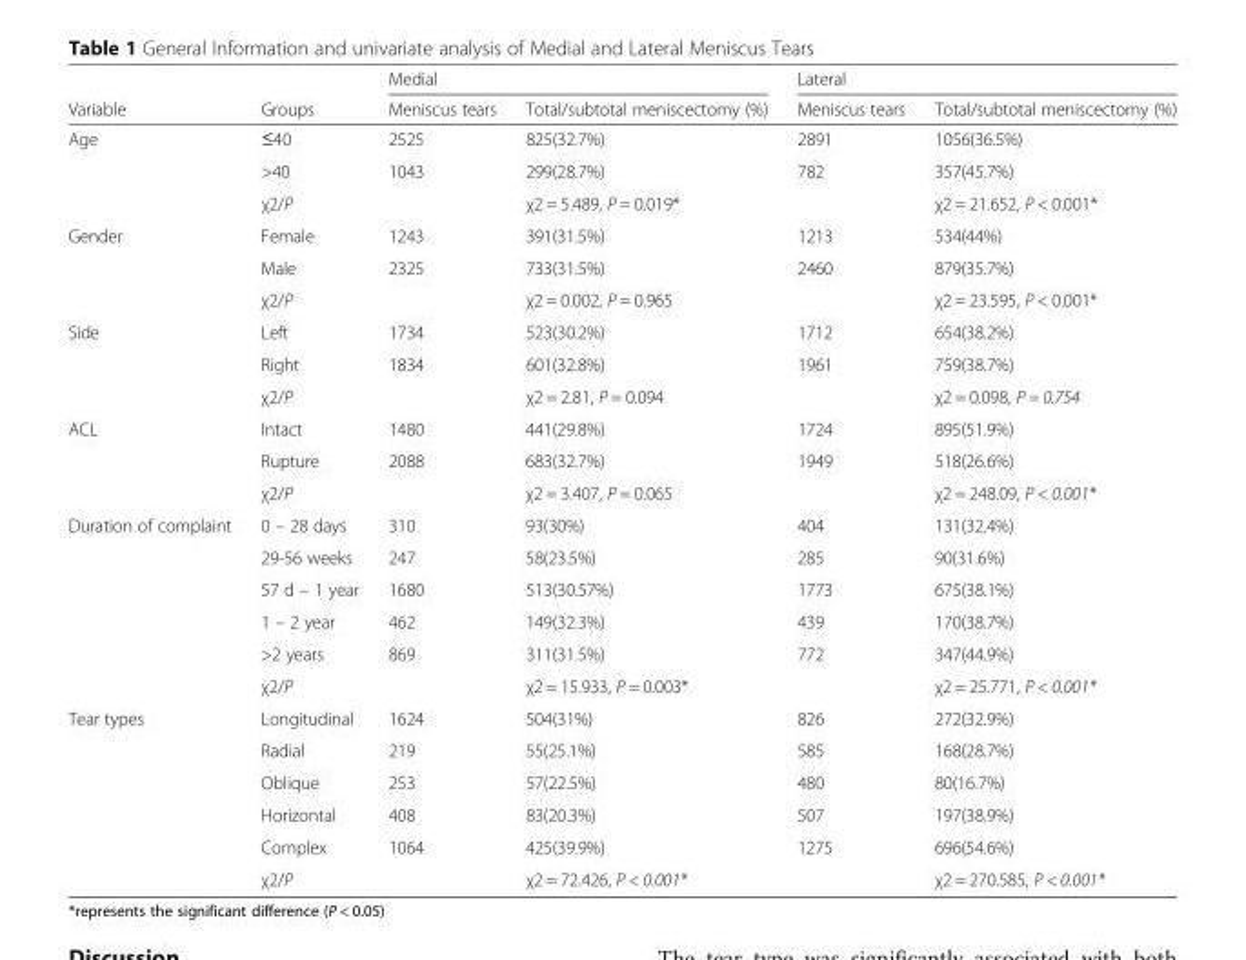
<table><thead><tr><td rowspan="2">Variable</td><td rowspan="2">Groups</td><td colspan="2">Medial</td><td colspan="2">Lateral</td></tr><tr><td>Meniscus tears</td><td>Total/subtotal meniscectomy (%)</td><td>Meniscus tears</td><td>Total/subtotal meniscectomy (%)</td></tr></thead><tbody><tr><td rowspan="3">Age</td><td>≤40</td><td>2525</td><td>825(32.7%)</td><td>2891</td><td>1056(36.5%)</td></tr><tr><td>&gt;40</td><td>1043</td><td>299(28.7%)</td><td>782</td><td>357(45.7%)</td></tr><tr><td>χ2/P</td><td></td><td>χ2 = 5.489, P = 0.019*</td><td></td><td>χ2 = 21.652, P &lt; 0.001*</td></tr><tr><td rowspan="3">Gender</td><td>Female</td><td>1243</td><td>391(31.5%)</td><td>1213</td><td>534(44%)</td></tr><tr><td>Male</td><td>2325</td><td>733(31.5%)</td><td>2460</td><td>879(35.7%)</td></tr><tr><td>χ2/P</td><td></td><td>χ2 = 0.002, P = 0.965</td><td></td><td>χ2 = 23.595, P &lt; 0.001*</td></tr><tr><td rowspan="3">Side</td><td>Left</td><td>1734</td><td>523(30.2%)</td><td>1712</td><td>654(38.2%)</td></tr><tr><td>Right</td><td>1834</td><td>601(32.8%)</td><td>1961</td><td>759(38.7%)</td></tr><tr><td>χ2/P</td><td></td><td>χ2 = 2.81, P = 0.094</td><td></td><td>χ2 = 0.098, P = 0.754</td></tr><tr><td rowspan="3">ACL</td><td>Intact</td><td>1480</td><td>441(29.8%)</td><td>1724</td><td>895(51.9%)</td></tr><tr><td>Rupture</td><td>2088</td><td>683(32.7%)</td><td>1949</td><td>518(26.6%)</td></tr><tr><td>χ2/P</td><td></td><td>χ2 = 3.407, P = 0.065</td><td></td><td>χ2 = 248.09, P &lt; 0.001*</td></tr><tr><td rowspan="6">Duration of complaint</td><td>0 – 28 days</td><td>310</td><td>93(30%)</td><td>404</td><td>131(32.4%)</td></tr><tr><td>29-56 weeks</td><td>247</td><td>58(23.5%)</td><td>285</td><td>90(31.6%)</td></tr><tr><td>57 d – 1 year</td><td>1680</td><td>513(30.57%)</td><td>1773</td><td>675(38.1%)</td></tr><tr><td>1 – 2 year</td><td>462</td><td>149(32.3%)</td><td>439</td><td>170(38.7%)</td></tr><tr><td>&gt;2 years</td><td>869</td><td>311(31.5%)</td><td>772</td><td>347(44.9%)</td></tr><tr><td>χ2/P</td><td></td><td>χ2 = 15.933, P = 0.003*</td><td></td><td>χ2 = 25.771, P &lt; 0.001*</td></tr><tr><td rowspan="6">Tear types</td><td>Longitudinal</td><td>1624</td><td>504(31%)</td><td>826</td><td>272(32.9%)</td></tr><tr><td>Radial</td><td>219</td><td>55(25.1%)</td><td>585</td><td>168(28.7%)</td></tr><tr><td>Oblique</td><td>253</td><td>57(22.5%)</td><td>480</td><td>80(16.7%)</td></tr><tr><td>Horizontal</td><td>408</td><td>83(20.3%)</td><td>507</td><td>197(38.9%)</td></tr><tr><td>Complex</td><td>1064</td><td>425(39.9%)</td><td>1275</td><td>696(54.6%)</td></tr><tr><td>χ2/P</td><td></td><td>χ2 = 72.426, P &lt; 0.001*</td><td></td><td>χ2 = 270.585, P &lt; 0.001*</td></tr></tbody></table>